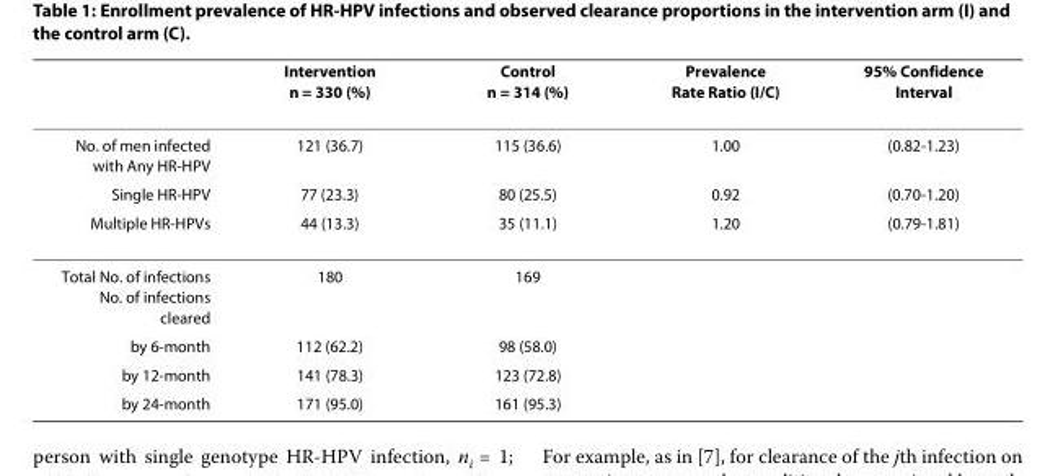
<table><thead><tr><td></td><td>Intervention n = 330 (%)</td><td>Control n = 314 (%)</td><td>Prevalence Rate Ratio (I/C)</td><td>95% Confidence Interval</td></tr></thead><tbody><tr><td>No. of men infected with Any HR-HPV</td><td>121 (36.7)</td><td>115 (36.6)</td><td>1.00</td><td>(0.82-1.23)</td></tr><tr><td>Single HR-HPV</td><td>77 (23.3)</td><td>80 (25.5)</td><td>0.92</td><td>(0.70-1.20)</td></tr><tr><td>Multiple HR-HPVs</td><td>44 (13.3)</td><td>35 (11.1)</td><td>1.20</td><td>(0.79-1.81)</td></tr><tr><td>Total No. of infections No. of infections cleared</td><td>180</td><td>169</td><td></td><td></td></tr><tr><td>by 6-month</td><td>112 (62.2)</td><td>98 (58.0)</td><td></td><td></td></tr><tr><td>by 12-month</td><td>141 (78.3)</td><td>123 (72.8)</td><td></td><td></td></tr><tr><td>by 24-month</td><td>171 (95.0)</td><td>161 (95.3)</td><td></td><td></td></tr></tbody></table>